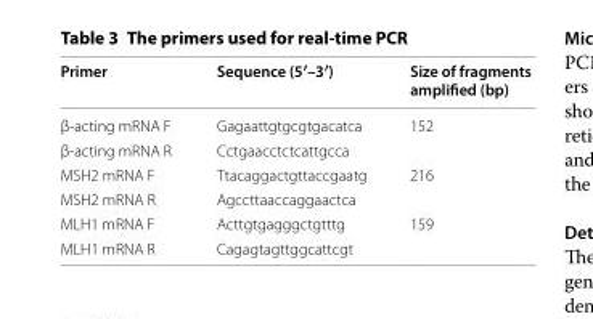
<table><thead><tr><td>Primer</td><td>Sequence (5′–3′)</td><td>Size of fragments amplified (bp)</td></tr></thead><tbody><tr><td>β‑acting mRNA F</td><td>Gagaattgtgcgtgacatca</td><td>152</td></tr><tr><td>β‑acting mRNA R</td><td>Cctgaacctctcattgcca</td><td></td></tr><tr><td>MSH2 mRNA F</td><td>Ttacaggactgttaccgaatg</td><td>216</td></tr><tr><td>MSH2 mRNA R</td><td>Agccttaaccaggaactca</td><td></td></tr><tr><td>MLH1 mRNA F</td><td>Acttgtgagggctgtttg</td><td>159</td></tr><tr><td>MLH1 mRNA R</td><td>Cagagtagttggcattcgt</td><td></td></tr></tbody></table>